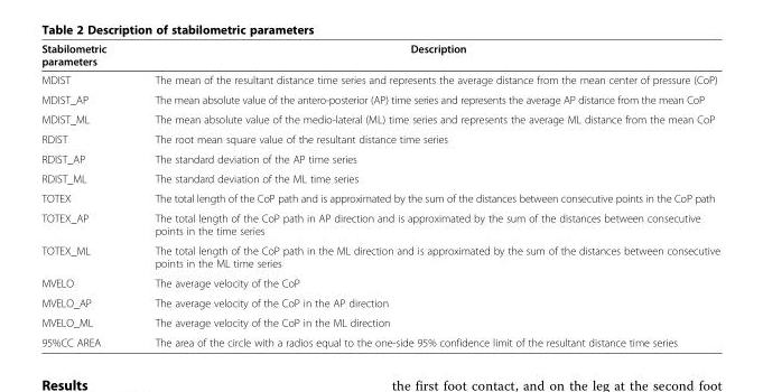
<table><thead><tr><td>Stabilometric parameters</td><td>Description</td></tr></thead><tbody><tr><td>MDIST</td><td>The mean of the resultant distance time series and represents the average distance from the mean center of pressure (CoP)</td></tr><tr><td>MDIST_AP</td><td>The mean absolute value of the antero-posterior (AP) time series and represents the average AP distance from the mean CoP</td></tr><tr><td>MDIST_ML</td><td>The mean absolute value of the medio-lateral (ML) time series and represents the average ML distance from the mean CoP</td></tr><tr><td>RDIST</td><td>The root mean square value of the resultant distance time series</td></tr><tr><td>RDIST_AP</td><td>The standard deviation of the AP time series</td></tr><tr><td>RDIST_ML</td><td>The standard deviation of the ML time series</td></tr><tr><td>TOTEX</td><td>The total length of the CoP path and is approximated by the sum of the distances between consecutive points in the CoP path</td></tr><tr><td>TOTEX_AP</td><td>The total length of the CoP path in AP direction and is approximated by the sum of the distances between consecutive points in the time series</td></tr><tr><td>TOTEX_ML</td><td>The total length of the CoP path in the ML direction and is approximated by the sum of the distances between consecutive points in the ML time series</td></tr><tr><td>MVELO</td><td>The average velocity of the CoP</td></tr><tr><td>MVELO_AP</td><td>The average velocity of the CoP in the AP direction</td></tr><tr><td>MVELO_ML</td><td>The average velocity of the CoP in the ML direction</td></tr><tr><td>95%CC AREA</td><td>The area of the circle with a radios equal to the one-side 95% confidence limit of the resultant distance time series</td></tr></tbody></table>